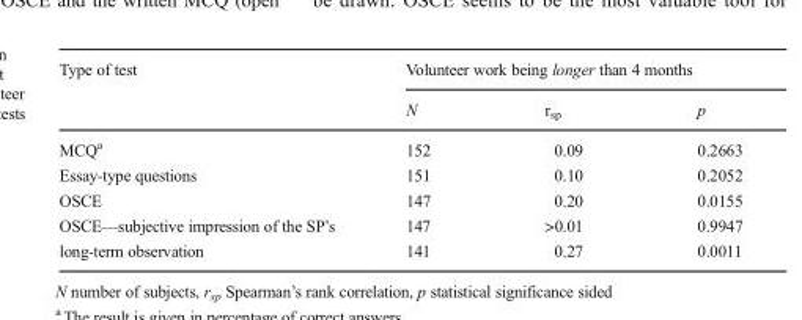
<table><thead><tr><td rowspan="2">Type of test</td><td colspan="3">Volunteer work being longer than 4 months</td></tr><tr><td>N</td><td>r<sub>sp</sub></td><td>p</td></tr></thead><tbody><tr><td>MCQ<sup>a</sup></td><td>152</td><td>0.09</td><td>0.2663</td></tr><tr><td>Essay-type questions</td><td>151</td><td>0.10</td><td>0.2052</td></tr><tr><td>OSCE</td><td>147</td><td>0.20</td><td>0.0155</td></tr><tr><td>OSCE—subjective impression of the SP’s</td><td>147</td><td>&gt;0.01</td><td>0.9947</td></tr><tr><td>long-term observation</td><td>141</td><td>0.27</td><td>0.0011</td></tr></tbody></table>